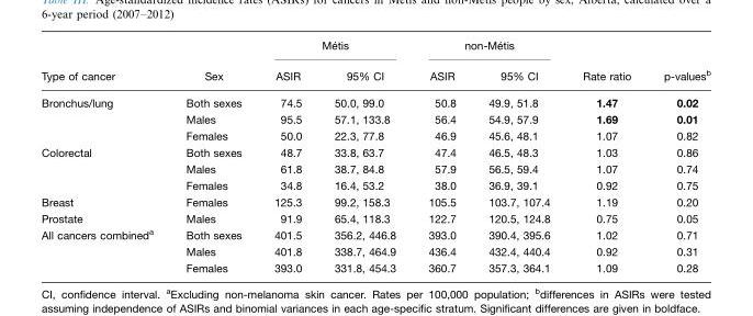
<table><thead><tr><td rowspan="2">Type of cancer</td><td rowspan="2">Sex</td><td colspan="2">Me´ tis</td><td colspan="2">non-Me´ tis</td><td rowspan="2">Rate ratio</td><td rowspan="2">p-values<sup>b</sup></td></tr><tr><td>ASIR</td><td>95% CI</td><td>ASIR</td><td>95% CI</td></tr></thead><tbody><tr><td rowspan="3">Bronchus/lung</td><td>Both sexes</td><td>74.5</td><td>50.0, 99.0</td><td>50.8</td><td>49.9, 51.8</td><td>1.47</td><td>0.02</td></tr><tr><td>Males</td><td>95.5</td><td>57.1, 133.8</td><td>56.4</td><td>54.9, 57.9</td><td>1.69</td><td>0.01</td></tr><tr><td>Females</td><td>50.0</td><td>22.3, 77.8</td><td>46.9</td><td>45.6, 48.1</td><td>1.07</td><td>0.82</td></tr><tr><td rowspan="3">Colorectal</td><td>Both sexes</td><td>48.7</td><td>33.8, 63.7</td><td>47.4</td><td>46.5, 48.3</td><td>1.03</td><td>0.86</td></tr><tr><td>Males</td><td>61.8</td><td>38.7, 84.8</td><td>57.9</td><td>56.5, 59.4</td><td>1.07</td><td>0.74</td></tr><tr><td>Females</td><td>34.8</td><td>16.4, 53.2</td><td>38.0</td><td>36.9, 39.1</td><td>0.92</td><td>0.75</td></tr><tr><td>Breast</td><td>Females</td><td>125.3</td><td>99.2, 158.3</td><td>105.5</td><td>103.7, 107.4</td><td>1.19</td><td>0.20</td></tr><tr><td>Prostate</td><td>Males</td><td>91.9</td><td>65.4, 118.3</td><td>122.7</td><td>120.5, 124.8</td><td>0.75</td><td>0.05</td></tr><tr><td rowspan="3">All cancers combined<sup>a</sup></td><td>Both sexes</td><td>401.5</td><td>356.2, 446.8</td><td>393.0</td><td>390.4, 395.6</td><td>1.02</td><td>0.71</td></tr><tr><td>Males</td><td>401.8</td><td>338.7, 464.9</td><td>436.4</td><td>432.4, 440.4</td><td>0.92</td><td>0.31</td></tr><tr><td>Females</td><td>393.0</td><td>331.8, 454.3</td><td>360.7</td><td>357.3, 364.1</td><td>1.09</td><td>0.28</td></tr></tbody></table>